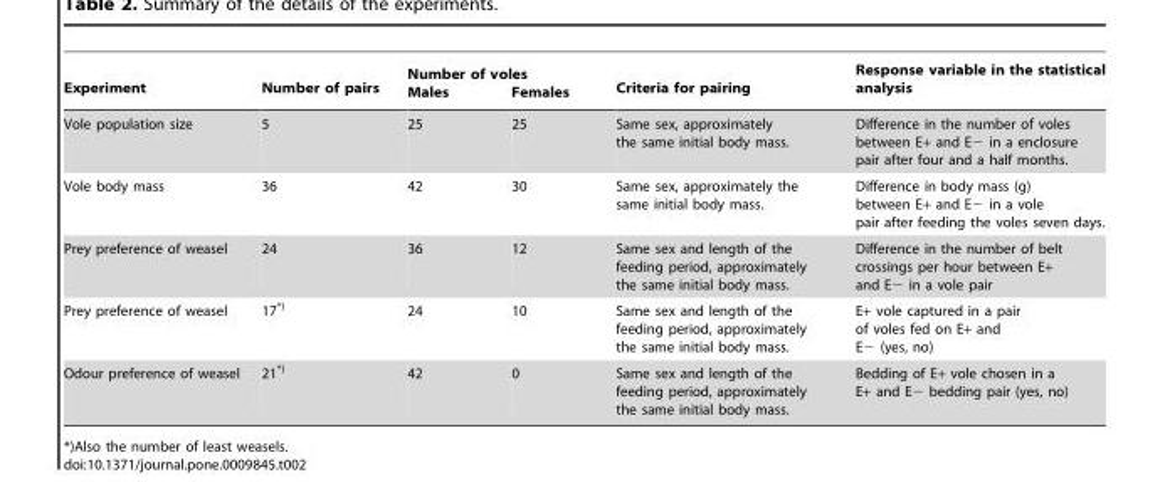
<table><thead><tr><td rowspan="2">Experiment Vole population size</td><td rowspan="2">Number of pairs 5</td><td colspan="2">Number of voles Males Females</td><td rowspan="2">Criteria for pairing Same sex, approximately the same initial body mass.</td><td rowspan="2">Response variable in the statistical analysis Difference in the number of voles between E+ and E− in a enclosure pair after four and a half months.</td></tr><tr><td>25</td><td>25</td></tr></thead><tbody><tr><td>Vole body mass</td><td>36</td><td>42</td><td>30</td><td>Same sex, approximately the same initial body mass.</td><td>Difference in body mass (g) between E+ and E− in a vole pair after feeding the voles seven days.</td></tr><tr><td>Prey preference of weasel</td><td>24</td><td>36</td><td>12</td><td>Same sex and length of the feeding period, approximately the same initial body mass.</td><td>Difference in the number of belt crossings per hour between E+ and E− in a vole pair</td></tr><tr><td>Prey preference of weasel</td><td>17*)</td><td>24</td><td>10</td><td>Same sex and length of the feeding period, approximately the same initial body mass.</td><td>E+ vole captured in a pair of voles fed on E+ and E− (yes, no)</td></tr><tr><td>Odour preference of weasel</td><td>21*)</td><td>42</td><td>0</td><td>Same sex and length of the feeding period, approximately the same initial body mass.</td><td>Bedding of E+ vole chosen in a E+ and E− bedding pair (yes, no)</td></tr></tbody></table>